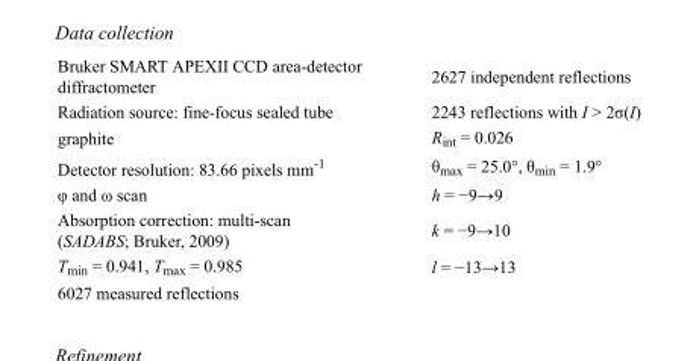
<table><tbody><tr><td>Bruker SMART APEXII CCD area-detector diffractometer</td><td>2627 independent reflections</td></tr><tr><td>Radiation source: fine-focus sealed tube</td><td>2243 reflections with I &gt; 2σ(I)</td></tr><tr><td>graphite</td><td>R<sub>int</sub> = 0.026</td></tr><tr><td>Detector resolution: 83.66 pixels mm<sup>-1</sup></td><td>θ<sub>max</sub> = 25.0°, θ<sub>min</sub> = 1.9°</td></tr><tr><td>φ and ω scan</td><td>h = −9→9</td></tr><tr><td>Absorption correction: multi-scan (SADABS; Bruker, 2009)</td><td>k = −9→10</td></tr><tr><td>T<sub>min</sub> = 0.941, T<sub>max</sub> = 0.985</td><td>l = −13→13</td></tr><tr><td>6027 measured reflections</td><td></td></tr></tbody></table>